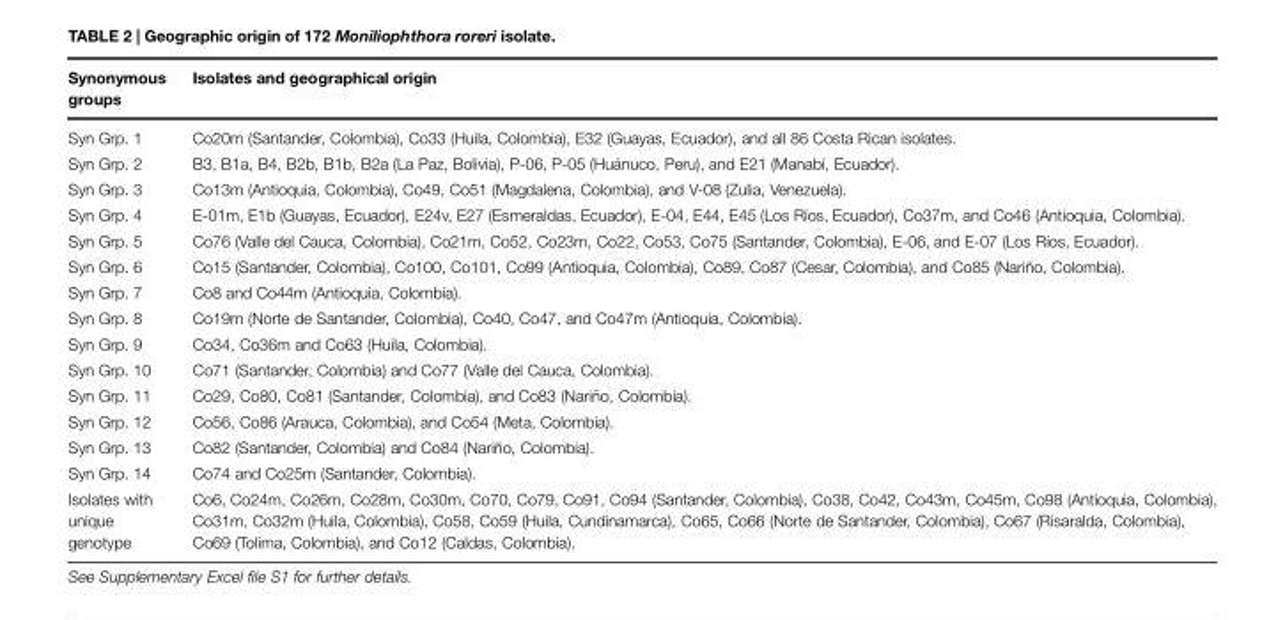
<table><thead><tr><td>Synonymous groups</td><td>Isolates and geographical origin</td></tr></thead><tbody><tr><td>Syn Grp. 1</td><td>Co20m (Santander, Colombia), Co33 (Huila, Colombia), E32 (Guayas, Ecuador), and all 86 Costa Rican isolates.</td></tr><tr><td>Syn Grp. 2</td><td>B3, B1a, B4, B2b, B1b, B2a (La Paz, Bolivia), P-06, P-05 (Huánuco, Peru), and E21 (Manabí, Ecuador).</td></tr><tr><td>Syn Grp. 3</td><td>Co13m (Antioquia, Colombia), Co49, Co51 (Magdalena, Colombia), and V-08 (Zulia, Venezuela).</td></tr><tr><td>Syn Grp. 4</td><td>E-01m, E1b (Guayas, Ecuador), E24v, E27 (Esmeraldas, Ecuador), E-04, E44, E45 (Los Ríos, Ecuador), Co37m, and Co46 (Antioquia, Colombia).</td></tr><tr><td>Syn Grp. 5</td><td>Co76 (Valle del Cauca, Colombia), Co21m, Co52, Co23m, Co22, Co53, Co75 (Santander, Colombia), E-06, and E-07 (Los Ríos, Ecuador).</td></tr><tr><td>Syn Grp. 6</td><td>Co15 (Santander, Colombia), Co100, Co101, Co99 (Antioquia, Colombia), Co89, Co87 (Cesar, Colombia), and Co85 (Nariño, Colombia).</td></tr><tr><td>Syn Grp. 7</td><td>Co8 and Co44m (Antioquia, Colombia).</td></tr><tr><td>Syn Grp. 8</td><td>Co19m (Norte de Santander, Colombia), Co40, Co47, and Co47m (Antioquia, Colombia).</td></tr><tr><td>Syn Grp. 9</td><td>Co34, Co36m and Co63 (Huila, Colombia).</td></tr><tr><td>Syn Grp. 10</td><td>Co71 (Santander, Colombia) and Co77 (Valle del Cauca, Colombia).</td></tr><tr><td>Syn Grp. 11</td><td>Co29, Co80, Co81 (Santander, Colombia), and Co83 (Nariño, Colombia).</td></tr><tr><td>Syn Grp. 12</td><td>Co56, Co86 (Arauca, Colombia), and Co54 (Meta, Colombia).</td></tr><tr><td>Syn Grp. 13</td><td>Co82 (Santander, Colombia) and Co84 (Nariño, Colombia).</td></tr><tr><td>Syn Grp. 14</td><td>Co74 and Co25m (Santander, Colombia).</td></tr><tr><td>Isolates with unique genotype</td><td>Co6, Co24m, Co26m, Co28m, Co30m, Co70, Co79, Co91, Co94 (Santander, Colombia), Co38, Co42, Co43m, Co45m, Co98 (Antioquia, Colombia), Co31m, Co32m (Huila, Colombia), Co58, Co59 (Huila, Cundinamarca), Co65, Co66 (Norte de Santander, Colombia), Co67 (Risaralda, Colombia), Co69 (Tolima, Colombia), and Co12 (Caldas, Colombia).</td></tr></tbody></table>